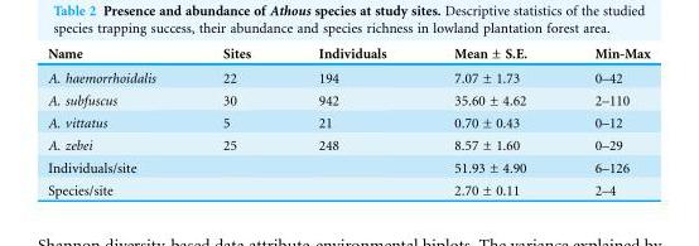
<table><thead><tr><td>Name</td><td>Sites</td><td>Individuals</td><td>Mean ± S.E.</td><td>Min-Max</td></tr></thead><tbody><tr><td>A. haemorrhoidalis</td><td>22</td><td>194</td><td>7.07 ± 1.73</td><td>0–42</td></tr><tr><td>A. subfuscus</td><td>30</td><td>942</td><td>35.60 ± 4.62</td><td>2–110</td></tr><tr><td>A. vittatus</td><td>5</td><td>21</td><td>0.70 ± 0.43</td><td>0–12</td></tr><tr><td>A. zebei</td><td>25</td><td>248</td><td>8.57 ± 1.60</td><td>0–29</td></tr><tr><td>Individuals/site</td><td></td><td></td><td>51.93 ± 4.90</td><td>6–126</td></tr><tr><td>Species/site</td><td></td><td></td><td>2.70 ± 0.11</td><td>2–4</td></tr></tbody></table>